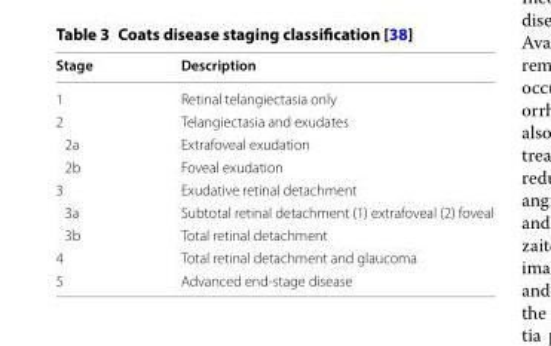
<table><thead><tr><td>Stage</td><td>Description</td></tr></thead><tbody><tr><td>1</td><td>Retinal telangiectasia only</td></tr><tr><td>2</td><td>Telangiectasia and exudates</td></tr><tr><td>2a</td><td>Extrafoveal exudation</td></tr><tr><td>2b</td><td>Foveal exudation</td></tr><tr><td>3</td><td>Exudative retinal detachment</td></tr><tr><td>3a</td><td>Subtotal retinal detachment (1) extrafoveal (2) foveal</td></tr><tr><td>3b</td><td>Total retinal detachment</td></tr><tr><td>4</td><td>Total retinal detachment and glaucoma</td></tr><tr><td>5</td><td>Advanced end-stage disease</td></tr></tbody></table>